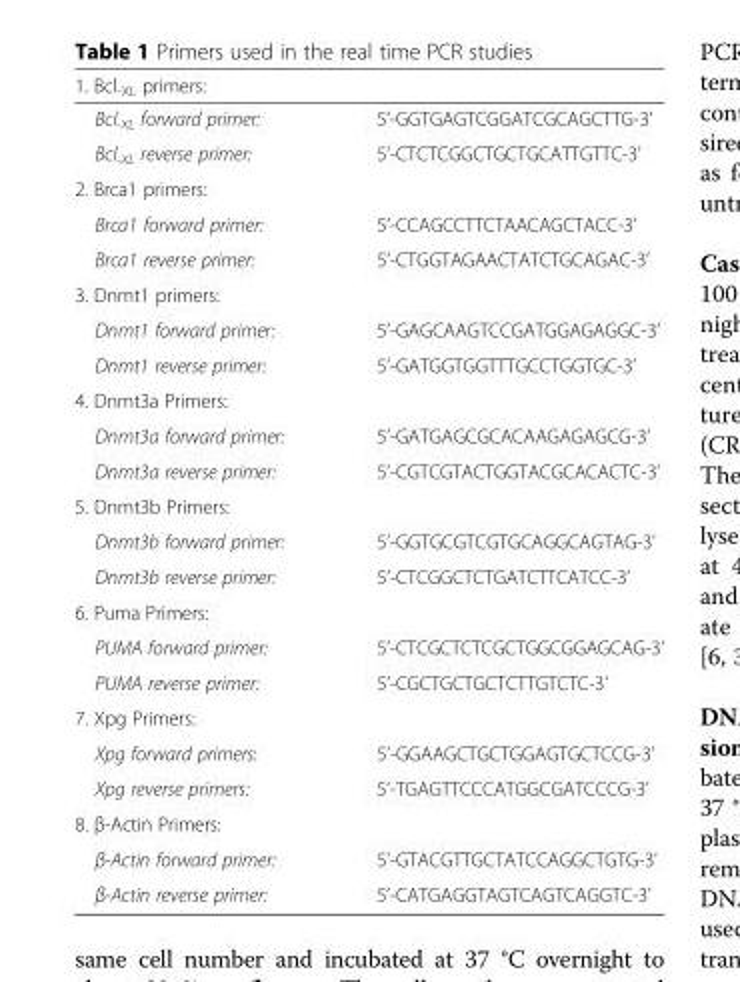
<table><thead><tr><td>1. Bcl<sub>-XL</sub> primers:</td><td></td></tr></thead><tbody><tr><td>Bcl<sub>-XL</sub> forward primer:</td><td>5’-GGTGAGTCGGATCGCAGCTTG-3’</td></tr><tr><td>Bcl<sub>-XL</sub> reverse primer:</td><td>5’-CTCTCGGCTGCTGCATTGTTC-3’</td></tr><tr><td colspan="2">2. Brca1 primers:</td></tr><tr><td>Brca1 forward primer:</td><td>5’-CCAGCCTTCTAACAGCTACC-3’</td></tr><tr><td>Brca1 reverse primer:</td><td>5’-CTGGTAGAACTATCTGCAGAC-3’</td></tr><tr><td colspan="2">3. Dnmt1 primers:</td></tr><tr><td>Dnmt1 forward primer:</td><td>5’-GAGCAAGTCCGATGGAGAGGC-3’</td></tr><tr><td>Dnmt1 reverse primer:</td><td>5’-GATGGTGGTTTGCCTGGTGC-3’</td></tr><tr><td colspan="2">4. Dnmt3a Primers:</td></tr><tr><td>Dnmt3a forward primer:</td><td>5’-GATGAGCGCACAAGAGAGCG-3’</td></tr><tr><td>Dnmt3a reverse primer:</td><td>5’-CGTCGTACTGGTACGCACACTC-3’</td></tr><tr><td colspan="2">5. Dnmt3b Primers:</td></tr><tr><td>Dnmt3b forward primer:</td><td>5’-GGTGCGTCGTGCAGGCAGTAG-3’</td></tr><tr><td>Dnmt3b reverse primer:</td><td>5’-CTCGGCTCTGATCTTCATCC-3’</td></tr><tr><td colspan="2">6. Puma Primers:</td></tr><tr><td>PUMA forward primer:</td><td>5’-CTCGCTCTCGCTGGCGGAGCAG-3’</td></tr><tr><td>PUMA reverse primer:</td><td>5’-CGCTGCTGCTCTTGTCTC-3’</td></tr><tr><td colspan="2">7. Xpg Primers:</td></tr><tr><td>Xpg forward primers:</td><td>5’-GGAAGCTGCTGGAGTGCTCCG-3’</td></tr><tr><td>Xpg reverse primers:</td><td>5’-TGAGTTCCCATGGCGATCCCG-3’</td></tr><tr><td colspan="2">8. β-Actin Primers:</td></tr><tr><td>β-Actin forward primer:</td><td>5’-GTACGTTGCTATCCAGGCTGTG-3’</td></tr><tr><td>β-Actin reverse primer:</td><td>5’-CATGAGGTAGTCAGTCAGGTC-3’</td></tr></tbody></table>